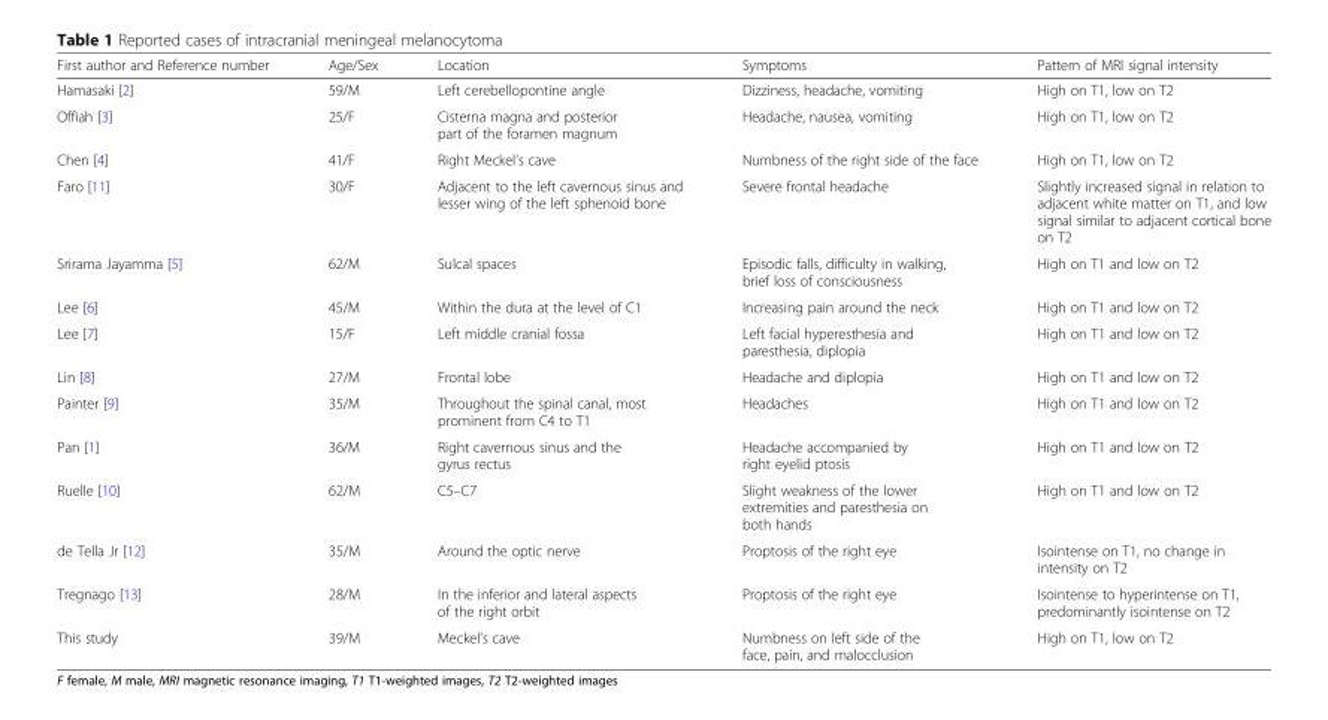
<table><thead><tr><td>First author and Reference number</td><td>Age/Sex</td><td>Location</td><td>Symptoms</td><td>Pattern of MRI signal intensity</td></tr></thead><tbody><tr><td>Hamasaki [2]</td><td>59/M</td><td>Left cerebellopontine angle</td><td>Dizziness, headache, vomiting</td><td>High on T1, low on T2</td></tr><tr><td>Offiah [3]</td><td>25/F</td><td>Cisterna magna and posterior part of the foramen magnum</td><td>Headache, nausea, vomiting</td><td>High on T1, low on T2</td></tr><tr><td>Chen [4]</td><td>41/F</td><td>Right Meckel’s cave</td><td>Numbness of the right side of the face</td><td>High on T1, low on T2</td></tr><tr><td>Faro [11]</td><td>30/F</td><td>Adjacent to the left cavernous sinus and lesser wing of the left sphenoid bone</td><td>Severe frontal headache</td><td>Slightly increased signal in relation to adjacent white matter on T1, and low signal similar to adjacent cortical bone on T2</td></tr><tr><td>Srirama Jayamma [5]</td><td>62/M</td><td>Sulcal spaces</td><td>Episodic falls, difficulty in walking, brief loss of consciousness</td><td>High on T1 and low on T2</td></tr><tr><td>Lee [6]</td><td>45/M</td><td>Within the dura at the level of C1</td><td>Increasing pain around the neck</td><td>High on T1 and low on T2</td></tr><tr><td>Lee [7]</td><td>15/F</td><td>Left middle cranial fossa</td><td>Left facial hyperesthesia and paresthesia, diplopia</td><td>High on T1 and low on T2</td></tr><tr><td>Lin [8]</td><td>27/M</td><td>Frontal lobe</td><td>Headache and diplopia</td><td>High on T1 and low on T2</td></tr><tr><td>Painter [9]</td><td>35/M</td><td>Throughout the spinal canal, most prominent from C4 to T1</td><td>Headaches</td><td>High on T1 and low on T2</td></tr><tr><td>Pan [1]</td><td>36/M</td><td>Right cavernous sinus and the gyrus rectus</td><td>Headache accompanied by right eyelid ptosis</td><td>High on T1 and low on T2</td></tr><tr><td>Ruelle [10]</td><td>62/M</td><td>C5–C7</td><td>Slight weakness of the lower extremities and paresthesia on both hands</td><td>High on T1 and low on T2</td></tr><tr><td>de Tella Jr [12]</td><td>35/M</td><td>Around the optic nerve</td><td>Proptosis of the right eye</td><td>Isointense on T1, no change in intensity on T2</td></tr><tr><td>Tregnago [13]</td><td>28/M</td><td>In the inferior and lateral aspects of the right orbit</td><td>Proptosis of the right eye</td><td>Isointense to hyperintense on T1, predominantly isointense on T2</td></tr><tr><td>This study</td><td>39/M</td><td>Meckel’s cave</td><td>Numbness on left side of the face, pain, and malocclusion</td><td>High on T1, low on T2</td></tr></tbody></table>